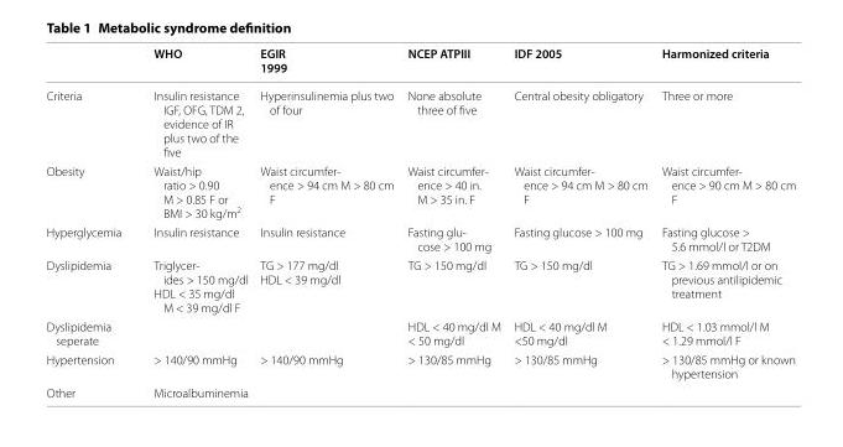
<table><thead><tr><td></td><td>WHO</td><td>EGIR 1999</td><td>NCEP ATPIII</td><td>IDF 2005</td><td>Harmonized criteria</td></tr></thead><tbody><tr><td>Criteria</td><td>Insulin resistance IGF, OFG, TDM 2, evidence of IR plus two of the five</td><td>Hyperinsulinemia plus two of four</td><td>None absolute three of five</td><td>Central obesity obligatory</td><td>Three or more</td></tr><tr><td>Obesity</td><td>Waist/hip ratio &gt; 0.90 M &gt; 0.85 F or BMI &gt; 30 kg/m<sup>2</sup></td><td>Waist circumfer‑ ence &gt; 94 cm M &gt; 80 cm F</td><td>Waist circumfer‑ ence &gt; 40 in. M &gt; 35 in. F</td><td>Waist circumfer‑ ence &gt; 94 cm M &gt; 80 cm F</td><td>Waist circumfer‑ ence &gt; 90 cm M &gt; 80 cm F</td></tr><tr><td>Hyperglycemia</td><td>Insulin resistance</td><td>Insulin resistance</td><td>Fasting glu‑ cose &gt; 100 mg</td><td>Fasting glucose &gt; 100 mg</td><td>Fasting glucose &gt; 5.6 mmol/l or T2DM</td></tr><tr><td>Dyslipidemia</td><td>Triglycer‑ ides &gt; 150 mg/dl HDL &lt; 35 mg/dl M &lt; 39 mg/dl F</td><td>TG &gt; 177 mg/dl HDL &lt; 39 mg/dl</td><td>TG &gt; 150 mg/dl</td><td>TG &gt; 150 mg/dl</td><td>TG &gt; 1.69 mmol/l or on previous antilipidemic treatment</td></tr><tr><td>Dyslipidemia seperate</td><td></td><td></td><td>HDL &lt; 40 mg/dl M &lt; 50 mg/dl</td><td>HDL &lt; 40 mg/dl M &lt;50 mg/dl</td><td>HDL &lt; 1.03 mmol/l M &lt; 1.29 mmol/l F</td></tr><tr><td>Hypertension</td><td>&gt; 140/90 mmHg</td><td>&gt; 140/90 mmHg</td><td>&gt; 130/85 mmHg</td><td>&gt; 130/85 mmHg</td><td>&gt; 130/85 mmHg or known hypertension</td></tr><tr><td>Other</td><td>Microalbuminemia</td><td></td><td></td><td></td><td></td></tr></tbody></table>